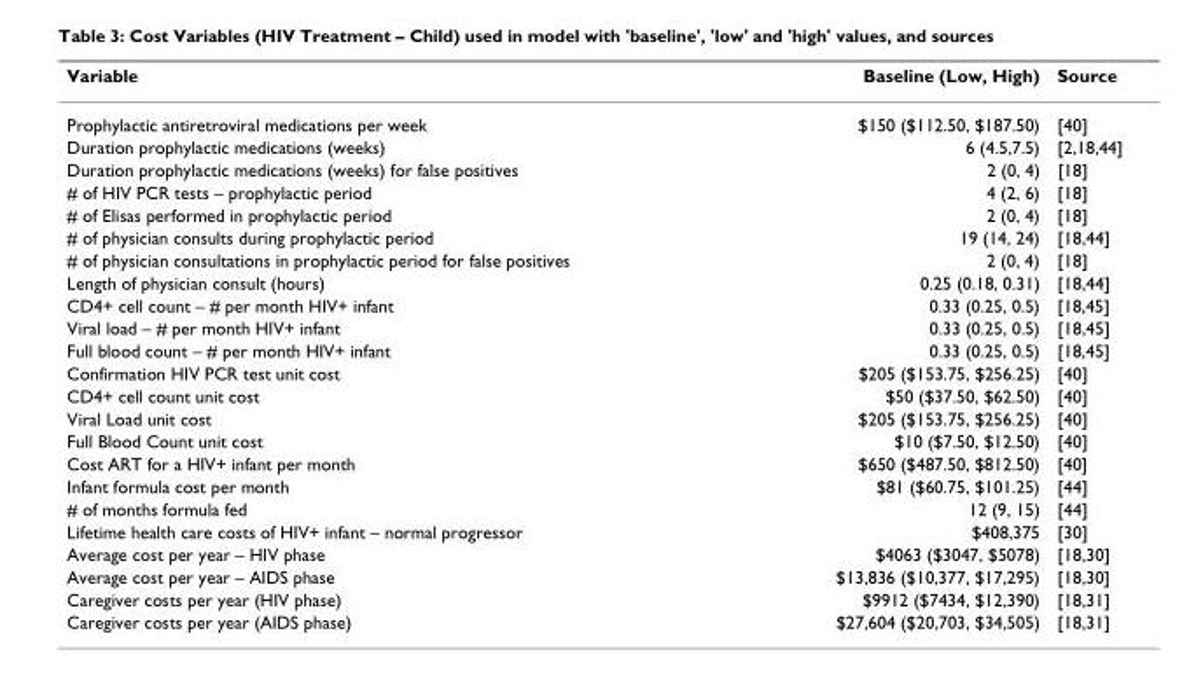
<table><thead><tr><td>Variable</td><td>Baseline (Low, High)</td><td>Source</td></tr></thead><tbody><tr><td>Prophylactic antiretroviral medications per week</td><td>$150 ($112.50, $187.50)</td><td>[40]</td></tr><tr><td>Duration prophylactic medications (weeks)</td><td>6 (4.5,7.5)</td><td>[2,18,44]</td></tr><tr><td>Duration prophylactic medications (weeks) for false positives</td><td>2 (0, 4)</td><td>[18]</td></tr><tr><td># of HIV PCR tests – prophylactic period</td><td>4 (2, 6)</td><td>[18]</td></tr><tr><td># of Elisas performed in prophylactic period</td><td>2 (0, 4)</td><td>[18]</td></tr><tr><td># of physician consults during prophylactic period</td><td>19 (14, 24)</td><td>[18,44]</td></tr><tr><td># of physician consultations in prophylactic period for false positives</td><td>2 (0, 4)</td><td>[18]</td></tr><tr><td>Length of physician consult (hours)</td><td>0.25 (0.18, 0.31)</td><td>[18,44]</td></tr><tr><td>CD4+ cell count – # per month HIV+ infant</td><td>0.33 (0.25, 0.5)</td><td>[18,45]</td></tr><tr><td>Viral load – # per month HIV+ infant</td><td>0.33 (0.25, 0.5)</td><td>[18,45]</td></tr><tr><td>Full blood count – # per month HIV+ infant</td><td>0.33 (0.25, 0.5)</td><td>[18,45]</td></tr><tr><td>Confirmation HIV PCR test unit cost</td><td>$205 ($153.75, $256.25)</td><td>[40]</td></tr><tr><td>CD4+ cell count unit cost</td><td>$50 ($37.50, $62.50)</td><td>[40]</td></tr><tr><td>Viral Load unit cost</td><td>$205 ($153.75, $256.25)</td><td>[40]</td></tr><tr><td>Full Blood Count unit cost</td><td>$10 ($7.50, $12.50)</td><td>[40]</td></tr><tr><td>Cost ART for a HIV+ infant per month</td><td>$650 ($487.50, $812.50)</td><td>[40]</td></tr><tr><td>Infant formula cost per month</td><td>$81 ($60.75, $101.25)</td><td>[44]</td></tr><tr><td># of months formula fed</td><td>12 (9, 15)</td><td>[44]</td></tr><tr><td>Lifetime health care costs of HIV+ infant – normal progressor</td><td>$408,375</td><td>[30]</td></tr><tr><td>Average cost per year – HIV phase</td><td>$4063 ($3047, $5078)</td><td>[18,30]</td></tr><tr><td>Average cost per year – AIDS phase</td><td>$13,836 ($10,377, $17,295)</td><td>[18,30]</td></tr><tr><td>Caregiver costs per year (HIV phase)</td><td>$9912 ($7434, $12,390)</td><td>[18,31]</td></tr><tr><td>Caregiver costs per year (AIDS phase)</td><td>$27,604 ($20,703, $34,505)</td><td>[18,31]</td></tr></tbody></table>